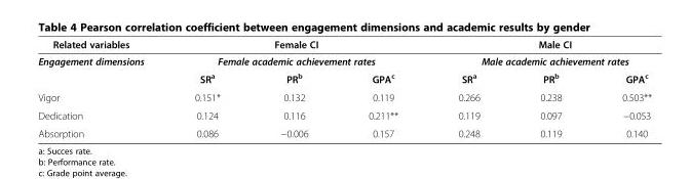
<table><thead><tr><td rowspan="3">Related variables Engagement dimensions</td><td rowspan="2" colspan="3">Female CI Female academic achievement rates</td><td rowspan="2" colspan="3">Male CI Male academic achievement rates</td></tr><tr></tr><tr><td>SR<sup>a</sup></td><td>PR<sup>b</sup></td><td>GPA<sup>c</sup></td><td>SR<sup>a</sup></td><td>PR<sup>b</sup></td><td>GPA<sup>c</sup></td></tr></thead><tbody><tr><td>Vigor</td><td>0.151*</td><td>0.132</td><td>0.119</td><td>0.266</td><td>0.238</td><td>0.503**</td></tr><tr><td>Dedication</td><td>0.124</td><td>0.116</td><td>0.211**</td><td>0.119</td><td>0.097</td><td>−0.053</td></tr><tr><td>Absorption</td><td>0.086</td><td>−0.006</td><td>0.157</td><td>0.248</td><td>0.119</td><td>0.140</td></tr></tbody></table>